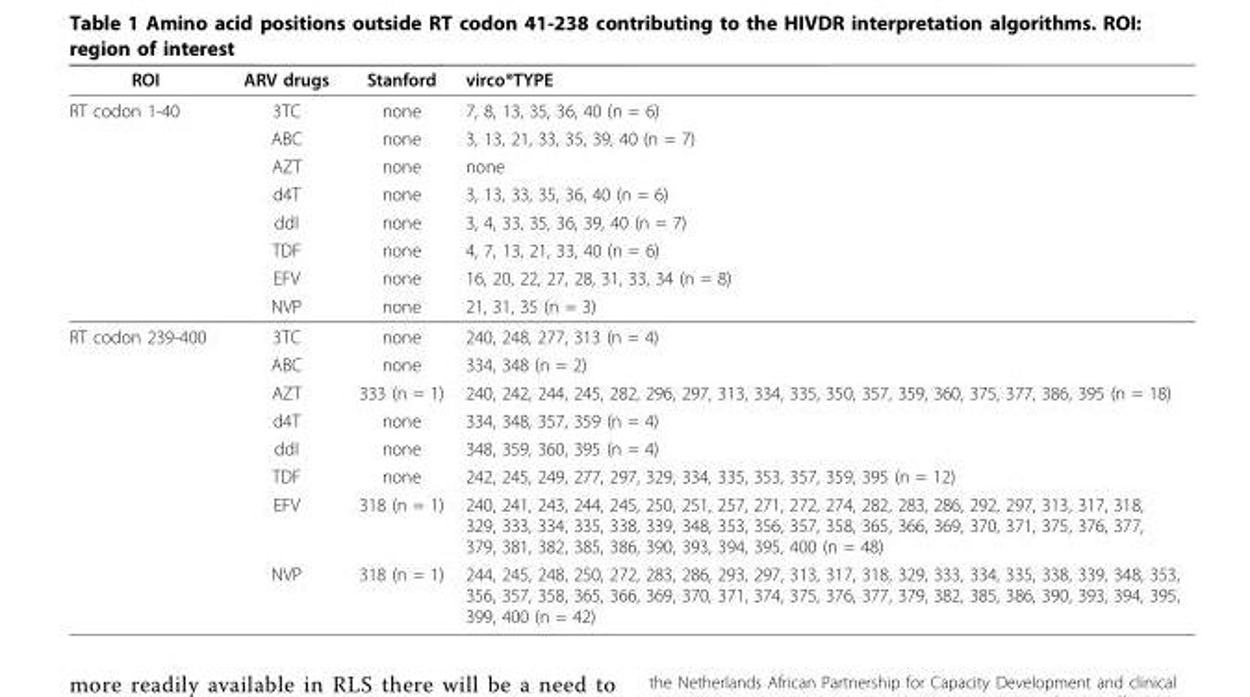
<table><thead><tr><td>ROI</td><td>ARV drugs</td><td>Stanford</td><td>virco<sup>®</sup>TYPE</td></tr></thead><tbody><tr><td rowspan="8">RT codon 1-40</td><td>3TC</td><td>none</td><td>7, 8, 13, 35, 36, 40 (n = 6)</td></tr><tr><td>ABC</td><td>none</td><td>3, 13, 21, 33, 35, 39, 40 (n = 7)</td></tr><tr><td>AZT</td><td>none</td><td>none</td></tr><tr><td>d4T</td><td>none</td><td>3, 13, 33, 35, 36, 40 (n = 6)</td></tr><tr><td>ddI</td><td>none</td><td>3, 4, 33, 35, 36, 39, 40 (n = 7)</td></tr><tr><td>TDF</td><td>none</td><td>4, 7, 13, 21, 33, 40 (n = 6)</td></tr><tr><td>EFV</td><td>none</td><td>16, 20, 22, 27, 28, 31, 33, 34 (n = 8)</td></tr><tr><td>NVP</td><td>none</td><td>21, 31, 35 (n = 3)</td></tr><tr><td rowspan="8">RT codon 239-400</td><td>3TC</td><td>none</td><td>240, 248, 277, 313 (n = 4)</td></tr><tr><td>ABC</td><td>none</td><td>334, 348 (n = 2)</td></tr><tr><td>AZT</td><td>333 (n = 1)</td><td>240, 242, 244, 245, 282, 296, 297, 313, 334, 335, 350, 357, 359, 360, 375, 377, 386, 395 (n = 18)</td></tr><tr><td>d4T</td><td>none</td><td>334, 348, 357, 359 (n = 4)</td></tr><tr><td>ddI</td><td>none</td><td>348, 359, 360, 395 (n = 4)</td></tr><tr><td>TDF</td><td>none</td><td>242, 245, 249, 277, 297, 329, 334, 335, 353, 357, 359, 395 (n = 12)</td></tr><tr><td>EFV</td><td>318 (n = 1)</td><td>240, 241, 243, 244, 245, 250, 251, 257, 271, 272, 274, 282, 283, 286, 292, 297, 313, 317, 318, 329, 333, 334, 335, 338, 339, 348, 353, 356, 357, 358, 365, 366, 369, 370, 371, 375, 376, 377, 379, 381, 382, 385, 386, 390, 393, 394, 395, 400 (n = 48)</td></tr><tr><td>NVP</td><td>318 (n = 1)</td><td>244, 245, 248, 250, 272, 283, 286, 293, 297, 313, 317, 318, 329, 333, 334, 335, 338, 339, 348, 353, 356, 357, 358, 365, 366, 369, 370, 371, 374, 375, 376, 377, 379, 382, 385, 386, 390, 393, 394, 395, 399, 400 (n = 42)</td></tr></tbody></table>